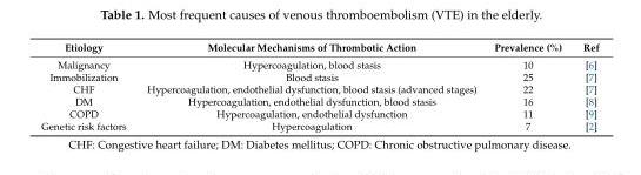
<table><thead><tr><td>Etiology</td><td>Molecular Mechanisms of Thrombotic Action</td><td>Prevalence (%)</td><td>Ref</td></tr></thead><tbody><tr><td>Malignancy</td><td>Hypercoagulation, blood stasis</td><td>10</td><td>[6]</td></tr><tr><td>Immobilization</td><td>Blood stasis</td><td>25</td><td>[7]</td></tr><tr><td>CHF</td><td>Hypercoagulation, endothelial dysfunction, blood stasis (advanced stages)</td><td>22</td><td>[7]</td></tr><tr><td>DM</td><td>Hypercoagulation, endothelial dysfunction, blood stasis</td><td>16</td><td>[8]</td></tr><tr><td>COPD</td><td>Hypercoagulation, endothelial dysfunction</td><td>11</td><td>[9]</td></tr><tr><td>Genetic risk factors</td><td>Hypercoagulation</td><td>7</td><td>[2]</td></tr></tbody></table>